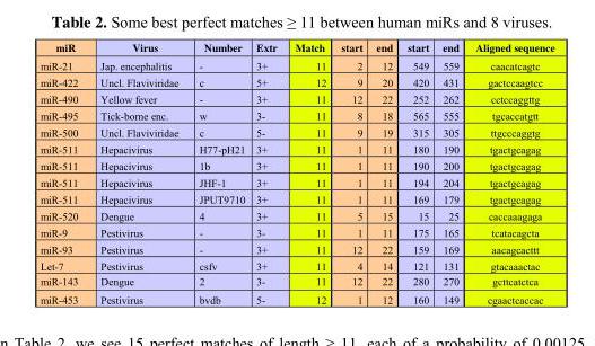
<table><thead><tr><td>miR</td><td>Virus</td><td>Number</td><td>Extr</td><td>Match</td><td>start</td><td>end</td><td>start</td><td>end</td><td>Aligned sequence</td></tr></thead><tbody><tr><td>miR-21</td><td>Jap. encephalitis</td><td>-</td><td>3+</td><td>11</td><td>2</td><td>12</td><td>549</td><td>559</td><td>caacatcagtc</td></tr><tr><td>miR-422</td><td>Uncl. Flaviviridae</td><td>c</td><td>5+</td><td>12</td><td>9</td><td>20</td><td>420</td><td>431</td><td>gactccaagtcc</td></tr><tr><td>miR-490</td><td>Yellow fever</td><td>-</td><td>3+</td><td>11</td><td>12</td><td>22</td><td>252</td><td>262</td><td>cctccaggttg</td></tr><tr><td>miR-495</td><td>Tick-borne enc.</td><td>w</td><td>3-</td><td>11</td><td>8</td><td>18</td><td>565</td><td>555</td><td>tgcaccatgtt</td></tr><tr><td>miR-500</td><td>Uncl. Flaviviridae</td><td>c</td><td>5-</td><td>11</td><td>9</td><td>19</td><td>315</td><td>305</td><td>ttgcccaggtg</td></tr><tr><td>miR-511</td><td>Hepacivirus</td><td>H77-pH21</td><td>3+</td><td>11</td><td>1</td><td>11</td><td>180</td><td>190</td><td>tgactgcagag</td></tr><tr><td>miR-511</td><td>Hepacivirus</td><td>1b</td><td>3+</td><td>11</td><td>1</td><td>11</td><td>190</td><td>200</td><td>tgactgcagag</td></tr><tr><td>miR-511</td><td>Hepacivirus</td><td>JHF-1</td><td>3+</td><td>11</td><td>1</td><td>11</td><td>194</td><td>204</td><td>tgactgcagag</td></tr><tr><td>miR-511</td><td>Hepacivirus</td><td>JPUT9710</td><td>3+</td><td>11</td><td>1</td><td>11</td><td>169</td><td>179</td><td>tgactgcagag</td></tr><tr><td>miR-520</td><td>Dengue</td><td>4</td><td>3+</td><td>11</td><td>5</td><td>15</td><td>15</td><td>25</td><td>caccaaagaga</td></tr><tr><td>miR-9</td><td>Pestivirus</td><td>-</td><td>3-</td><td>11</td><td>1</td><td>11</td><td>175</td><td>165</td><td>tcatacagcta</td></tr><tr><td>miR-93</td><td>Pestivirus</td><td>-</td><td>3+</td><td>11</td><td>12</td><td>22</td><td>159</td><td>169</td><td>aacagcacttt</td></tr><tr><td>Let-7</td><td>Pestivirus</td><td>csfv</td><td>3+</td><td>11</td><td>4</td><td>14</td><td>121</td><td>131</td><td>gtacaaactac</td></tr><tr><td>miR-143</td><td>Dengue</td><td>2</td><td>3-</td><td>11</td><td>12</td><td>22</td><td>280</td><td>270</td><td>gcttcatctca</td></tr><tr><td>miR-453</td><td>Pestivirus</td><td>bvdb</td><td>5-</td><td>12</td><td>1</td><td>12</td><td>160</td><td>149</td><td>cgaactcaccac</td></tr></tbody></table>